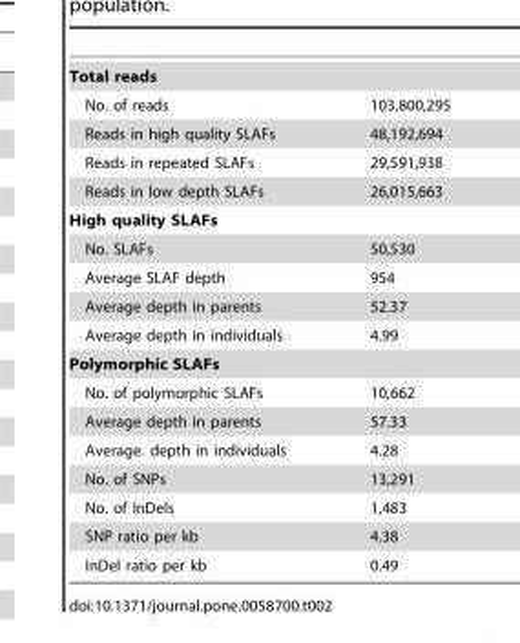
<table><tbody><tr><td colspan="2">Total reads</td></tr><tr><td>No. of reads</td><td>103,800,295</td></tr><tr><td>Reads in high quality SLAFs</td><td>48,192,694</td></tr><tr><td>Reads in repeated SLAFs</td><td>29,591,938</td></tr><tr><td>Reads in low depth SLAFs</td><td>26,015,663</td></tr><tr><td colspan="2">High quality SLAFs</td></tr><tr><td>No. SLAFs</td><td>50,530</td></tr><tr><td>Average SLAF depth</td><td>954</td></tr><tr><td>Average depth in parents</td><td>52.37</td></tr><tr><td>Average depth in individuals</td><td>4.99</td></tr><tr><td colspan="2">Polymorphic SLAFs</td></tr><tr><td>No. of polymorphic SLAFs</td><td>10,662</td></tr><tr><td>Average depth in parents</td><td>57.33</td></tr><tr><td>Average. depth in individuals</td><td>4.28</td></tr><tr><td>No. of SNPs</td><td>13,291</td></tr><tr><td>No. of InDels</td><td>1,483</td></tr><tr><td>SNP ratio per kb</td><td>4.38</td></tr><tr><td>InDel ratio per kb</td><td>0.49</td></tr></tbody></table>